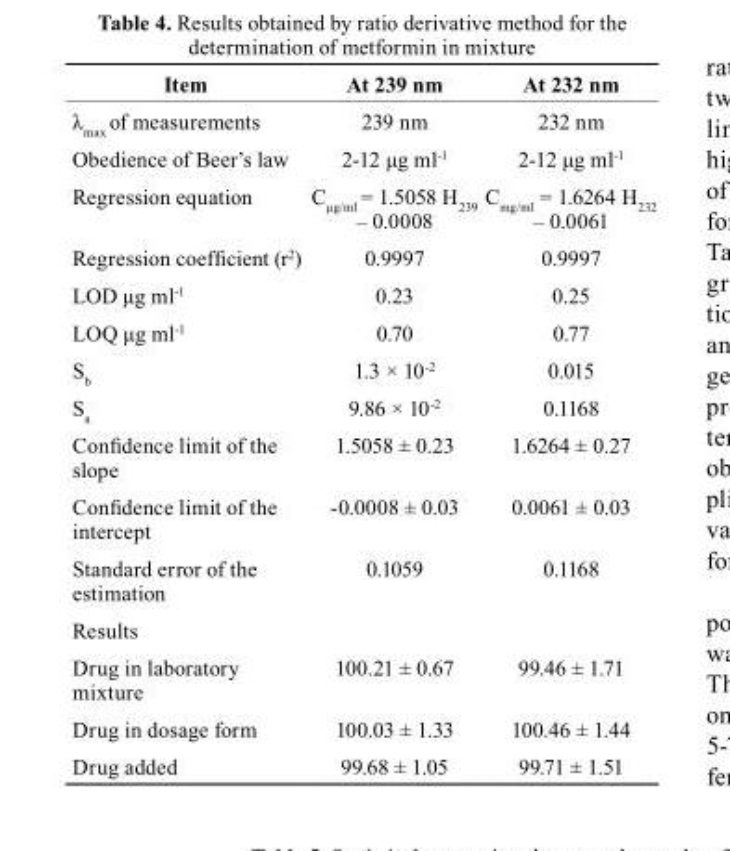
<table><thead><tr><td>Item</td><td>At 239 nm</td><td>At 232 nm</td></tr></thead><tbody><tr><td>λ<sub>max</sub> of measurements</td><td>239 nm</td><td>232 nm</td></tr><tr><td>Obedience of Beer’s law</td><td>2-12 μg ml<sup>-1</sup></td><td>2-12 μg ml<sup>-1</sup></td></tr><tr><td>Regression equation</td><td>C<sub>μg/ml</sub> = 1.5058 H<sub>239</sub> – 0.0008</td><td>C<sub>mg/ml</sub> = 1.6264 H<sub>232</sub> – 0.0061</td></tr><tr><td>Regression coefficient (r<sup>2</sup>)</td><td>0.9997</td><td>0.9997</td></tr><tr><td>LOD μg ml<sup>-1</sup></td><td>0.23</td><td>0.25</td></tr><tr><td>LOQ μg ml<sup>-1</sup></td><td>0.70</td><td>0.77</td></tr><tr><td>S<sub>b</sub></td><td>1.3 × 10<sup>-2</sup></td><td>0.015</td></tr><tr><td>S<sub>a</sub></td><td>9.86 × 10<sup>-2</sup></td><td>0.1168</td></tr><tr><td>Confidence limit of the slope</td><td>1.5058 ± 0.23</td><td>1.6264 ± 0.27</td></tr><tr><td>Confidence limit of the intercept</td><td>-0.0008 ± 0.03</td><td>0.0061 ± 0.03</td></tr><tr><td>Standard error of the estimation</td><td>0.1059</td><td>0.1168</td></tr><tr><td colspan="3">Results</td></tr><tr><td>Drug in laboratory mixture</td><td>100.21 ± 0.67</td><td>99.46 ± 1.71</td></tr><tr><td>Drug in dosage form</td><td>100.03 ± 1.33</td><td>100.46 ± 1.44</td></tr><tr><td>Drug added</td><td>99.68 ± 1.05</td><td>99.71 ± 1.51</td></tr></tbody></table>